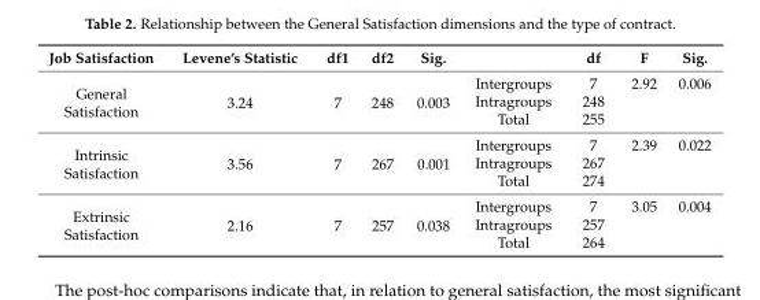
<table><thead><tr><td>Job Satisfaction</td><td>Levene’s Statistic</td><td>df1</td><td>df2</td><td>Sig.</td><td></td><td>df</td><td>F</td><td>Sig.</td></tr></thead><tbody><tr><td rowspan="3">General Satisfaction</td><td rowspan="3">3.24</td><td rowspan="3">7</td><td rowspan="3">248</td><td rowspan="3">0.003</td><td>Intergroups</td><td>7</td><td>2.92</td><td>0.006</td></tr><tr><td>Intragroups</td><td>248</td><td></td><td></td></tr><tr><td>Total</td><td>255</td><td></td><td></td></tr><tr><td rowspan="3">Intrinsic Satisfaction</td><td rowspan="3">3.56</td><td rowspan="3">7</td><td rowspan="3">267</td><td rowspan="3">0.001</td><td>Intergroups</td><td>7</td><td>2.39</td><td>0.022</td></tr><tr><td>Intragroups</td><td>267</td><td></td><td></td></tr><tr><td>Total</td><td>274</td><td></td><td></td></tr><tr><td rowspan="3">Extrinsic Satisfaction</td><td rowspan="3">2.16</td><td rowspan="3">7</td><td rowspan="3">257</td><td rowspan="3">0.038</td><td>Intergroups</td><td>7</td><td>3.05</td><td>0.004</td></tr><tr><td>Intragroups</td><td>257</td><td></td><td></td></tr><tr><td>Total</td><td>264</td><td></td><td></td></tr></tbody></table>